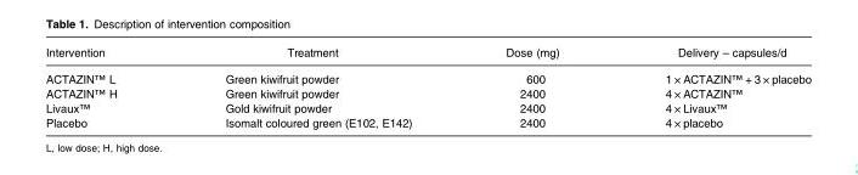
<table><thead><tr><td>Intervention</td><td>Treatment</td><td>Dose (mg)</td><td>Delivery – capsules/d</td></tr></thead><tbody><tr><td>ACTAZIN™ L</td><td>Green kiwifruit powder</td><td>600</td><td>1 × ACTAZIN™ + 3 × placebo</td></tr><tr><td>ACTAZIN™ H</td><td>Green kiwifruit powder</td><td>2400</td><td>4 × ACTAZIN™</td></tr><tr><td>Livaux™</td><td>Gold kiwifruit powder</td><td>2400</td><td>4 × Livaux™</td></tr><tr><td>Placebo</td><td>Isomalt coloured green (E102, E142)</td><td>2400</td><td>4 × placebo</td></tr></tbody></table>